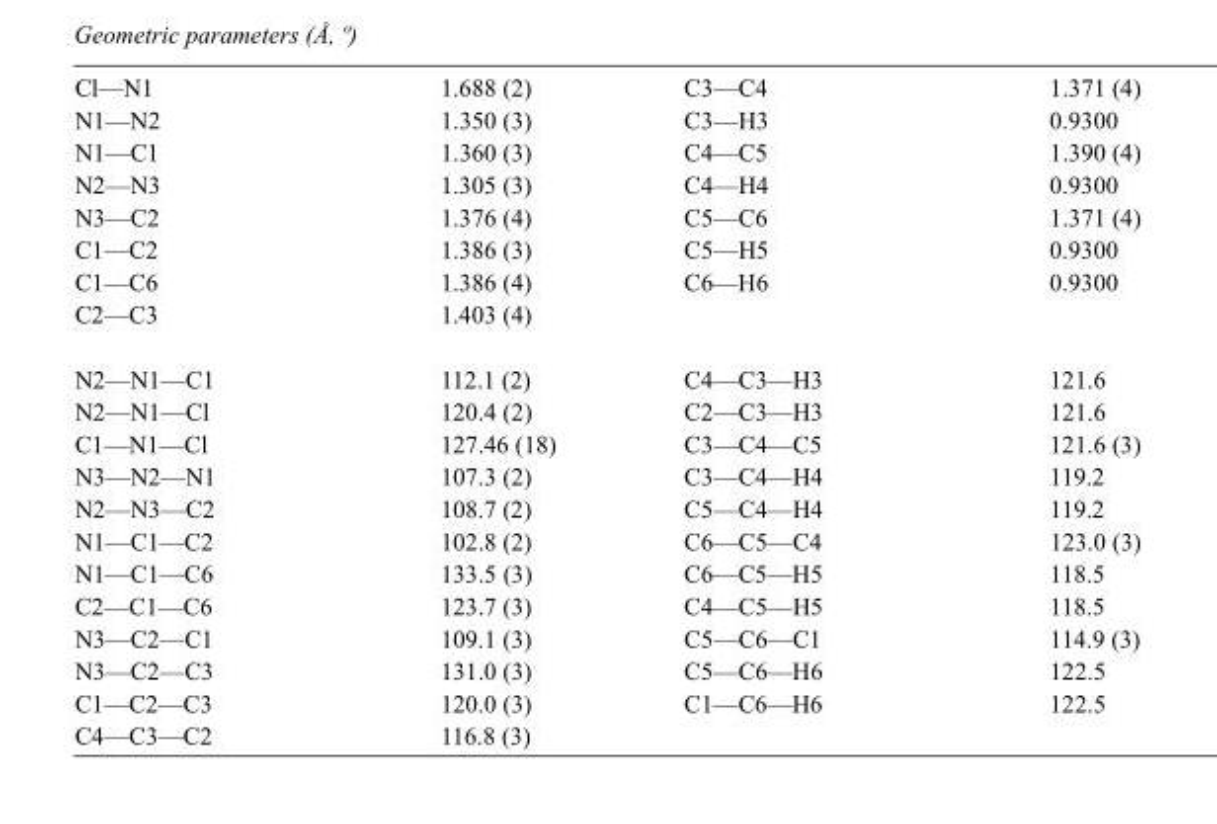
<table><tbody><tr><td>Cl—N1</td><td>1.688 (2)</td><td>C3—C4</td><td>1.371 (4)</td></tr><tr><td>N1—N2</td><td>1.350 (3)</td><td>C3—H3</td><td>0.9300</td></tr><tr><td>N1—C1</td><td>1.360 (3)</td><td>C4—C5</td><td>1.390 (4)</td></tr><tr><td>N2—N3</td><td>1.305 (3)</td><td>C4—H4</td><td>0.9300</td></tr><tr><td>N3—C2</td><td>1.376 (4)</td><td>C5—C6</td><td>1.371 (4)</td></tr><tr><td>C1—C2</td><td>1.386 (3)</td><td>C5—H5</td><td>0.9300</td></tr><tr><td>C1—C6</td><td>1.386 (4)</td><td>C6—H6</td><td>0.9300</td></tr><tr><td>C2—C3</td><td>1.403 (4)</td><td></td><td></td></tr><tr><td>N2—N1—C1</td><td>112.1 (2)</td><td>C4—C3—H3</td><td>121.6</td></tr><tr><td>N2—N1—Cl</td><td>120.4 (2)</td><td>C2—C3—H3</td><td>121.6</td></tr><tr><td>C1—N1—Cl</td><td>127.46 (18)</td><td>C3—C4—C5</td><td>121.6 (3)</td></tr><tr><td>N3—N2—N1</td><td>107.3 (2)</td><td>C3—C4—H4</td><td>119.2</td></tr><tr><td>N2—N3—C2</td><td>108.7 (2)</td><td>C5—C4—H4</td><td>119.2</td></tr><tr><td>N1—C1—C2</td><td>102.8 (2)</td><td>C6—C5—C4</td><td>123.0 (3)</td></tr><tr><td>N1—C1—C6</td><td>133.5 (3)</td><td>C6—C5—H5</td><td>118.5</td></tr><tr><td>C2—C1—C6</td><td>123.7 (3)</td><td>C4—C5—H5</td><td>118.5</td></tr><tr><td>N3—C2—C1</td><td>109.1 (3)</td><td>C5—C6—C1</td><td>114.9 (3)</td></tr><tr><td>N3—C2—C3</td><td>131.0 (3)</td><td>C5—C6—H6</td><td>122.5</td></tr><tr><td>C1—C2—C3</td><td>120.0 (3)</td><td>C1—C6—H6</td><td>122.5</td></tr><tr><td>C4—C3—C2</td><td>116.8 (3)</td><td></td><td></td></tr></tbody></table>